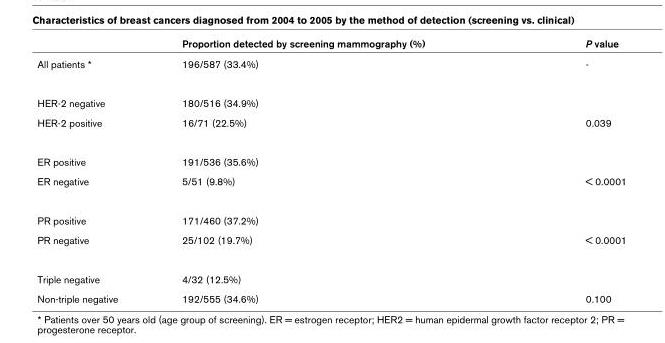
<table><thead><tr><td></td><td>Proportion detected by screening mammography (%)</td><td>P value</td></tr></thead><tbody><tr><td>All patients *</td><td>196/587 (33.4%)</td><td>-</td></tr><tr><td>HER-2 negative</td><td>180/516 (34.9%)</td><td></td></tr><tr><td>HER-2 positive</td><td>16/71 (22.5%)</td><td>0.039</td></tr><tr><td>ER positive</td><td>191/536 (35.6%)</td><td></td></tr><tr><td>ER negative</td><td>5/51 (9.8%)</td><td>&lt; 0.0001</td></tr><tr><td>PR positive</td><td>171/460 (37.2%)</td><td></td></tr><tr><td>PR negative</td><td>25/102 (19.7%)</td><td>&lt; 0.0001</td></tr><tr><td>Triple negative</td><td>4/32 (12.5%)</td><td></td></tr><tr><td>Non-triple negative</td><td>192/555 (34.6%)</td><td>0.100</td></tr></tbody></table>